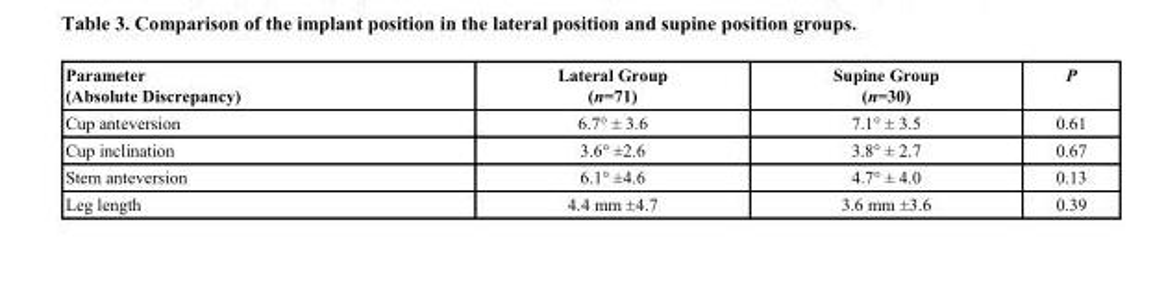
<table><thead><tr><td>Parameter (Absolute Discrepancy)</td><td>Lateral Group (n=71)</td><td>Supine Group (n=30)</td><td>P</td></tr></thead><tbody><tr><td>Cup anteversion</td><td>6.7° ± 3.6</td><td>7.1° ± 3.5</td><td>0.61</td></tr><tr><td>Cup inclination</td><td>3.6° ±2.6</td><td>3.8° ± 2.7</td><td>0.67</td></tr><tr><td>Stem anteversion</td><td>6.1° ±4.6</td><td>4.7° ± 4.0</td><td>0.13</td></tr><tr><td>Leg length</td><td>4.4 mm ±4.7</td><td>3.6 mm ±3.6</td><td>0.39</td></tr></tbody></table>